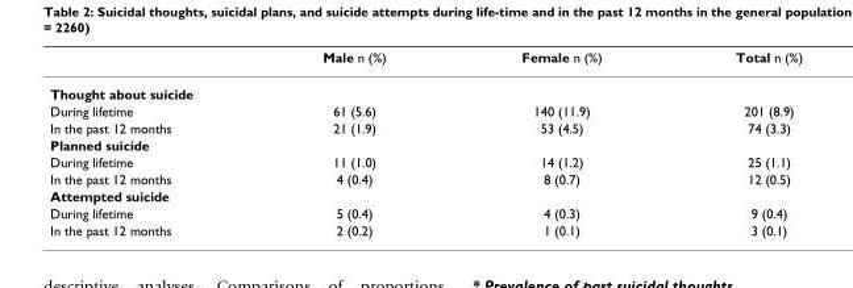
<table><thead><tr><td></td><td>Male n (%)</td><td>Female n (%)</td><td>Total n (%)</td></tr></thead><tbody><tr><td colspan="4">Thought about suicide</td></tr><tr><td>During lifetime</td><td>61 (5.6)</td><td>140 (11.9)</td><td>201 (8.9)</td></tr><tr><td>In the past 12 months</td><td>21 (1.9)</td><td>53 (4.5)</td><td>74 (3.3)</td></tr><tr><td colspan="4">Planned suicide</td></tr><tr><td>During lifetime</td><td>11 (1.0)</td><td>14 (1.2)</td><td>25 (1.1)</td></tr><tr><td>In the past 12 months</td><td>4 (0.4)</td><td>8 (0.7)</td><td>12 (0.5)</td></tr><tr><td colspan="4">Attempted suicide</td></tr><tr><td>During lifetime</td><td>5 (0.4)</td><td>4 (0.3)</td><td>9 (0.4)</td></tr><tr><td>In the past 12 months</td><td>2 (0.2)</td><td>1 (0.1)</td><td>3 (0.1)</td></tr></tbody></table>